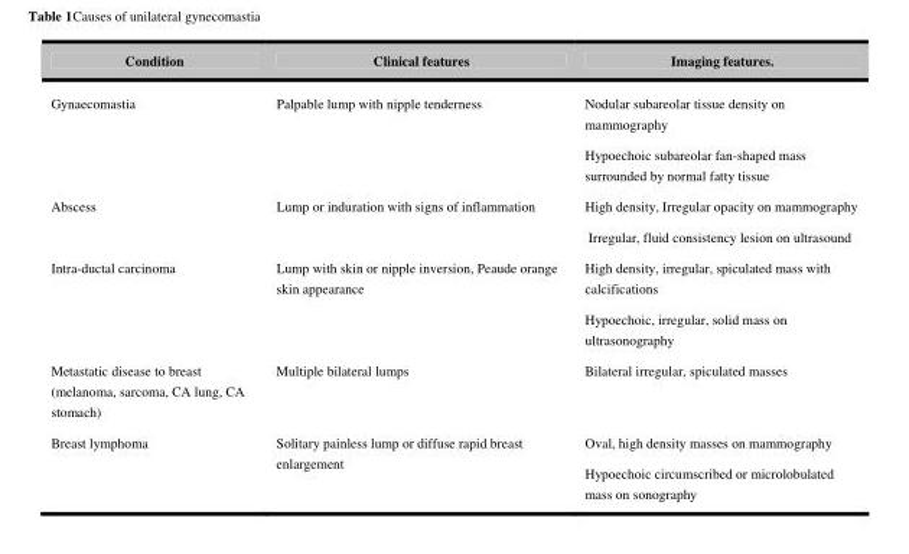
<table><thead><tr><td>Condition</td><td>Clinical features</td><td>Imaging features.</td></tr></thead><tbody><tr><td>Gynaecomastia</td><td>Palpable lump with nipple tenderness</td><td>Nodular subareolar tissue density on mammography Hypoechoic subareolar fan-shaped mass surrounded by normal fatty tissue</td></tr><tr><td>Abscess</td><td>Lump or induration with signs of inflammation</td><td>High density, Irregular opacity on mammography Irregular, fluid consistency lesion on ultrasound</td></tr><tr><td>Intra-ductal carcinoma</td><td>Lump with skin or nipple inversion, Peaude orange skin appearance</td><td>High density, irregular, spiculated mass with calcifications Hypoechoic, irregular, solid mass on ultrasonography</td></tr><tr><td>Metastatic disease to breast (melanoma, sarcoma, CA lung, CA stomach)</td><td>Multiple bilateral lumps</td><td>Bilateral irregular, spiculated masses</td></tr><tr><td>Breast lymphoma</td><td>Solitary painless lump or diffuse rapid breast enlargement</td><td>Oval, high density masses on mammography Hypoechoic circumscribed or microlobulated mass on sonography</td></tr></tbody></table>